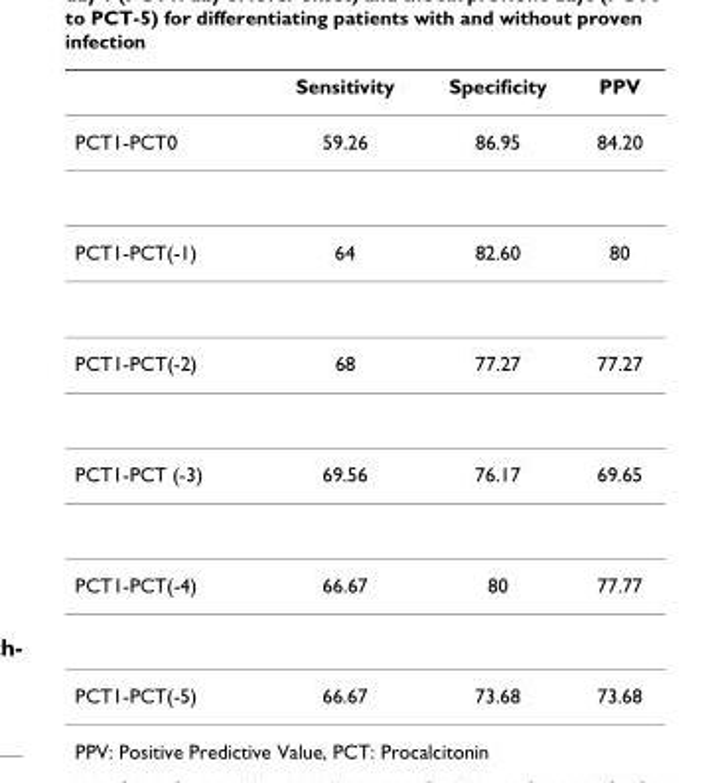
<table><thead><tr><td></td><td>Sensitivity</td><td>Specificity</td><td>PPV</td></tr></thead><tbody><tr><td>PCT1-PCT0</td><td>59.26</td><td>86.95</td><td>84.20</td></tr><tr><td>PCT1-PCT(-1)</td><td>64</td><td>82.60</td><td>80</td></tr><tr><td>PCT1-PCT(-2)</td><td>68</td><td>77.27</td><td>77.27</td></tr><tr><td>PCT1-PCT (-3)</td><td>69.56</td><td>76.17</td><td>69.65</td></tr><tr><td>PCT1-PCT(-4)</td><td>66.67</td><td>80</td><td>77.77</td></tr><tr><td>PCT1-PCT(-5)</td><td>66.67</td><td>73.68</td><td>73.68</td></tr></tbody></table>